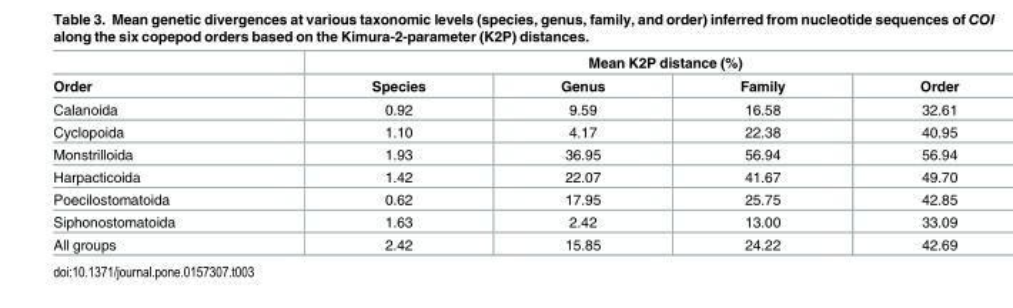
<table><thead><tr><td rowspan="2">Order</td><td colspan="4">Mean K2P distance (%)</td></tr><tr><td>Species</td><td>Genus</td><td>Family</td><td>Order</td></tr></thead><tbody><tr><td>Calanoida</td><td>0.92</td><td>9.59</td><td>16.58</td><td>32.61</td></tr><tr><td>Cyclopoida</td><td>1.10</td><td>4.17</td><td>22.38</td><td>40.95</td></tr><tr><td>Monstrilloida</td><td>1.93</td><td>36.95</td><td>56.94</td><td>56.94</td></tr><tr><td>Harpacticoida</td><td>1.42</td><td>22.07</td><td>41.67</td><td>49.70</td></tr><tr><td>Poecilostomatoida</td><td>0.62</td><td>17.95</td><td>25.75</td><td>42.85</td></tr><tr><td>Siphonostomatoida</td><td>1.63</td><td>2.42</td><td>13.00</td><td>33.09</td></tr><tr><td>All groups</td><td>2.42</td><td>15.85</td><td>24.22</td><td>42.69</td></tr></tbody></table>